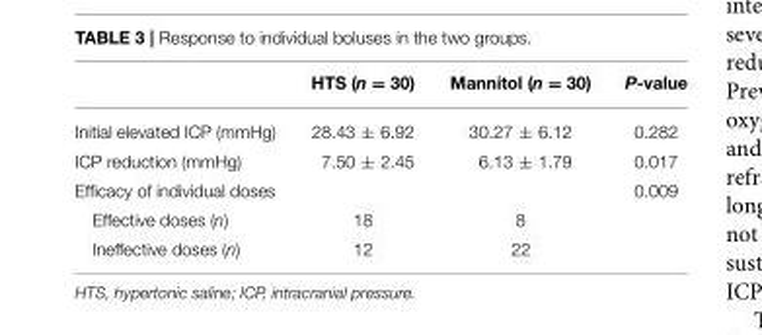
<table><thead><tr><td></td><td>HTS (n = 30)</td><td>Mannitol (n = 30)</td><td>P-value</td></tr></thead><tbody><tr><td>Initial elevated ICP (mmHg)</td><td>28.43 ± 6.92</td><td>30.27 ± 6.12</td><td>0.282</td></tr><tr><td>ICP reduction (mmHg)</td><td>7.50 ± 2.45</td><td>6.13 ± 1.79</td><td>0.017</td></tr><tr><td>Efficacy of individual doses</td><td></td><td></td><td>0.009</td></tr><tr><td>Effective doses (n)</td><td>18</td><td>8</td><td></td></tr><tr><td>Ineffective doses (n)</td><td>12</td><td>22</td><td></td></tr></tbody></table>